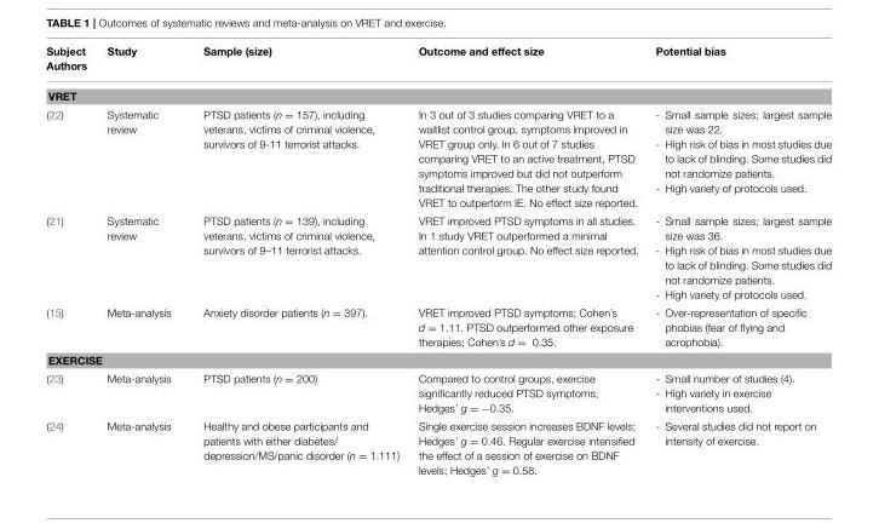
<table><thead><tr><td>Subject Authors</td><td>Study</td><td>Sample (size)</td><td>Outcome and effect size</td><td>Potential bias</td></tr></thead><tbody><tr><td colspan="5">VRET</td></tr><tr><td>(22)</td><td>Systematic review</td><td>PTSD patients (n = 157), including veterans, victims of criminal violence, survivors of 9-11 terrorist attacks.</td><td>In 3 out of 3 studies comparing VRET to a waitlist control group, symptoms improved in VRET group only. In 6 out of 7 studies comparing VRET to an active treatment, PTSD symptoms improved but did not outperform traditional therapies. The other study found VRET to outperform IE. No effect size reported.</td><td>- Small sample sizes; largest sample size was 22. - High risk of bias in most studies due to lack of blinding. Some studies did not randomize patients. - High variety of protocols used.</td></tr><tr><td>(21)</td><td>Systematic review</td><td>PTSD patients (n = 139), including veterans, victims of criminal violence, survivors of 9–11 terrorist attacks.</td><td>VRET improved PTSD symptoms in all studies. In 1 study VRET outperformed a minimal attention control group. No effect size reported.</td><td>- Small sample sizes; largest sample size was 36. - High risk of bias in most studies due to lack of blinding. Some studies did not randomize patients. - High variety of protocols used.</td></tr><tr><td>(15)</td><td>Meta-analysis</td><td>Anxiety disorder patients (n = 397).</td><td>VRET improved PTSD symptoms; Cohen’s d = 1.11. PTSD outperformed other exposure therapies; Cohen’s d = 0.35.</td><td>- Over-representation of specific phobias (fear of flying and acrophobia).</td></tr><tr><td colspan="5">EXERCISE</td></tr><tr><td>(23)</td><td>Meta-analysis</td><td>PTSD patients (n = 200)</td><td>Compared to control groups, exercise significantly reduced PTSD symptoms; Hedges’ g = −0.35.</td><td>- Small number of studies (4). - High variety in exercise interventions used.</td></tr><tr><td>(24)</td><td>Meta-analysis</td><td>Healthy and obese participants and patients with either diabetes/ depression/MS/panic disorder (n = 1.111)</td><td>Single exercise session increases BDNF levels; Hedges’ g = 0.46. Regular exercise intensified the effect of a session of exercise on BDNF levels; Hedges’ g = 0.58.</td><td>- Several studies did not report on intensity of exercise.</td></tr></tbody></table>